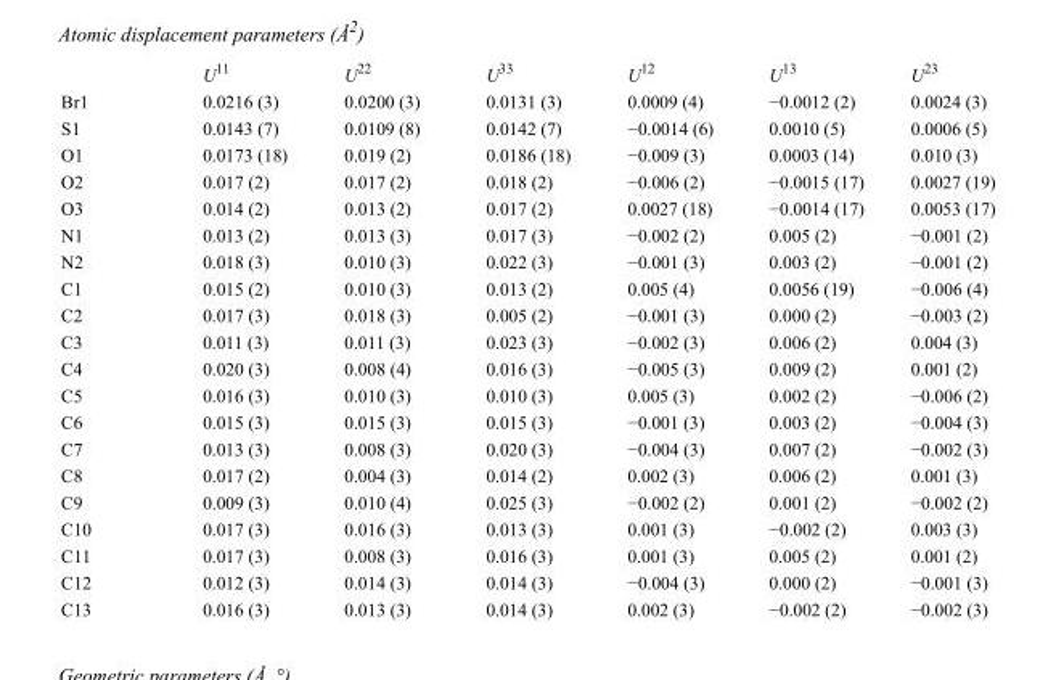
<table><thead><tr><td></td><td>U<sup>11</sup></td><td>U<sup>22</sup></td><td>U<sup>33</sup></td><td>U<sup>12</sup></td><td>U<sup>13</sup></td><td>U<sup>23</sup></td></tr></thead><tbody><tr><td>Br1</td><td>0.0216 (3)</td><td>0.0200 (3)</td><td>0.0131 (3)</td><td>0.0009 (4)</td><td>−0.0012 (2)</td><td>0.0024 (3)</td></tr><tr><td>S1</td><td>0.0143 (7)</td><td>0.0109 (8)</td><td>0.0142 (7)</td><td>−0.0014 (6)</td><td>0.0010 (5)</td><td>0.0006 (5)</td></tr><tr><td>O1</td><td>0.0173 (18)</td><td>0.019 (2)</td><td>0.0186 (18)</td><td>−0.009 (3)</td><td>0.0003 (14)</td><td>0.010 (3)</td></tr><tr><td>O2</td><td>0.017 (2)</td><td>0.017 (2)</td><td>0.018 (2)</td><td>−0.006 (2)</td><td>−0.0015 (17)</td><td>0.0027 (19)</td></tr><tr><td>O3</td><td>0.014 (2)</td><td>0.013 (2)</td><td>0.017 (2)</td><td>0.0027 (18)</td><td>−0.0014 (17)</td><td>0.0053 (17)</td></tr><tr><td>N1</td><td>0.013 (2)</td><td>0.013 (3)</td><td>0.017 (3)</td><td>−0.002 (2)</td><td>0.005 (2)</td><td>−0.001 (2)</td></tr><tr><td>N2</td><td>0.018 (3)</td><td>0.010 (3)</td><td>0.022 (3)</td><td>−0.001 (3)</td><td>0.003 (2)</td><td>−0.001 (2)</td></tr><tr><td>C1</td><td>0.015 (2)</td><td>0.010 (3)</td><td>0.013 (2)</td><td>0.005 (4)</td><td>0.0056 (19)</td><td>−0.006 (4)</td></tr><tr><td>C2</td><td>0.017 (3)</td><td>0.018 (3)</td><td>0.005 (2)</td><td>−0.001 (3)</td><td>0.000 (2)</td><td>−0.003 (2)</td></tr><tr><td>C3</td><td>0.011 (3)</td><td>0.011 (3)</td><td>0.023 (3)</td><td>−0.002 (3)</td><td>0.006 (2)</td><td>0.004 (3)</td></tr><tr><td>C4</td><td>0.020 (3)</td><td>0.008 (4)</td><td>0.016 (3)</td><td>−0.005 (3)</td><td>0.009 (2)</td><td>0.001 (2)</td></tr><tr><td>C5</td><td>0.016 (3)</td><td>0.010 (3)</td><td>0.010 (3)</td><td>0.005 (3)</td><td>0.002 (2)</td><td>−0.006 (2)</td></tr><tr><td>C6</td><td>0.015 (3)</td><td>0.015 (3)</td><td>0.015 (3)</td><td>−0.001 (3)</td><td>0.003 (2)</td><td>−0.004 (3)</td></tr><tr><td>C7</td><td>0.013 (3)</td><td>0.008 (3)</td><td>0.020 (3)</td><td>−0.004 (3)</td><td>0.007 (2)</td><td>−0.002 (3)</td></tr><tr><td>C8</td><td>0.017 (2)</td><td>0.004 (3)</td><td>0.014 (2)</td><td>0.002 (3)</td><td>0.006 (2)</td><td>0.001 (3)</td></tr><tr><td>C9</td><td>0.009 (3)</td><td>0.010 (4)</td><td>0.025 (3)</td><td>−0.002 (2)</td><td>0.001 (2)</td><td>−0.002 (2)</td></tr><tr><td>C10</td><td>0.017 (3)</td><td>0.016 (3)</td><td>0.013 (3)</td><td>0.001 (3)</td><td>−0.002 (2)</td><td>0.003 (3)</td></tr><tr><td>C11</td><td>0.017 (3)</td><td>0.008 (3)</td><td>0.016 (3)</td><td>0.001 (3)</td><td>0.005 (2)</td><td>0.001 (2)</td></tr><tr><td>C12</td><td>0.012 (3)</td><td>0.014 (3)</td><td>0.014 (3)</td><td>−0.004 (3)</td><td>0.000 (2)</td><td>−0.001 (3)</td></tr><tr><td>C13</td><td>0.016 (3)</td><td>0.013 (3)</td><td>0.014 (3)</td><td>0.002 (3)</td><td>−0.002 (2)</td><td>−0.002 (3)</td></tr></tbody></table>